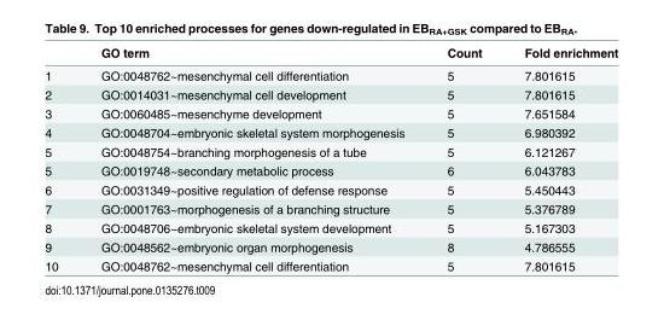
<table><thead><tr><td></td><td>GO term</td><td>Count</td><td>Fold enrichment</td></tr></thead><tbody><tr><td>1</td><td>GO:0048762~mesenchymal cell differentiation</td><td>5</td><td>7.801615</td></tr><tr><td>2</td><td>GO:0014031~mesenchymal cell development</td><td>5</td><td>7.801615</td></tr><tr><td>3</td><td>GO:0060485~mesenchyme development</td><td>5</td><td>7.651584</td></tr><tr><td>4</td><td>GO:0048704~embryonic skeletal system morphogenesis</td><td>5</td><td>6.980392</td></tr><tr><td>5</td><td>GO:0048754~branching morphogenesis of a tube</td><td>5</td><td>6.121267</td></tr><tr><td>5</td><td>GO:0019748~secondary metabolic process</td><td>6</td><td>6.043783</td></tr><tr><td>6</td><td>GO:0031349~positive regulation of defense response</td><td>5</td><td>5.450443</td></tr><tr><td>7</td><td>GO:0001763~morphogenesis of a branching structure</td><td>5</td><td>5.376789</td></tr><tr><td>8</td><td>GO:0048706~embryonic skeletal system development</td><td>5</td><td>5.167303</td></tr><tr><td>9</td><td>GO:0048562~embryonic organ morphogenesis</td><td>8</td><td>4.786555</td></tr><tr><td>10</td><td>GO:0048762~mesenchymal cell differentiation</td><td>5</td><td>7.801615</td></tr></tbody></table>